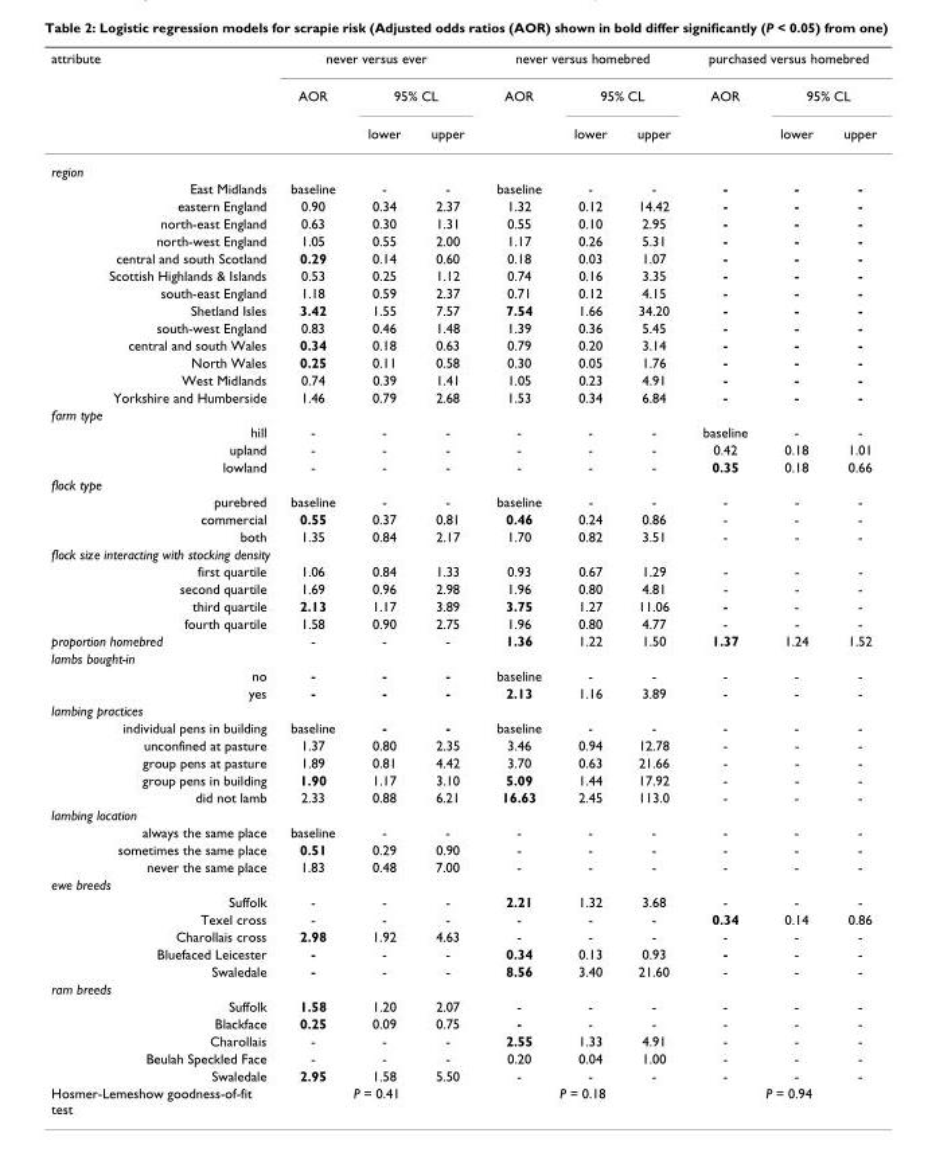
<table><thead><tr><td rowspan="3">attribute</td><td colspan="3">never versus ever</td><td colspan="3">never versus homebred</td><td colspan="3">purchased versus homebred</td></tr><tr><td rowspan="2">AOR</td><td colspan="2">95% CL</td><td rowspan="2">AOR</td><td colspan="2">95% CL</td><td rowspan="2">AOR</td><td colspan="2">95% CL</td></tr><tr><td>lower</td><td>upper</td><td>lower</td><td>upper</td><td>lower</td><td>upper</td></tr></thead><tbody><tr><td colspan="10">region</td></tr><tr><td>East Midlands</td><td>baseline</td><td>-</td><td>-</td><td>baseline</td><td>-</td><td>-</td><td>-</td><td>-</td><td>-</td></tr><tr><td>eastern England</td><td>0.90</td><td>0.34</td><td>2.37</td><td>1.32</td><td>0.12</td><td>14.42</td><td>-</td><td>-</td><td>-</td></tr><tr><td>north-east England</td><td>0.63</td><td>0.30</td><td>1.31</td><td>0.55</td><td>0.10</td><td>2.95</td><td>-</td><td>-</td><td>-</td></tr><tr><td>north-west England</td><td>1.05</td><td>0.55</td><td>2.00</td><td>1.17</td><td>0.26</td><td>5.31</td><td>-</td><td>-</td><td>-</td></tr><tr><td>central and south Scotland</td><td>0.29</td><td>0.14</td><td>0.60</td><td>0.18</td><td>0.03</td><td>1.07</td><td>-</td><td>-</td><td>-</td></tr><tr><td>Scottish Highlands &amp; Islands</td><td>0.53</td><td>0.25</td><td>1.12</td><td>0.74</td><td>0.16</td><td>3.35</td><td>-</td><td>-</td><td>-</td></tr><tr><td>south-east England</td><td>1.18</td><td>0.59</td><td>2.37</td><td>0.71</td><td>0.12</td><td>4.15</td><td>-</td><td>-</td><td>-</td></tr><tr><td>Shetland Isles</td><td>3.42</td><td>1.55</td><td>7.57</td><td>7.54</td><td>1.66</td><td>34.20</td><td>-</td><td>-</td><td>-</td></tr><tr><td>south-west England</td><td>0.83</td><td>0.46</td><td>1.48</td><td>1.39</td><td>0.36</td><td>5.45</td><td>-</td><td>-</td><td>-</td></tr><tr><td>central and south Wales</td><td>0.34</td><td>0.18</td><td>0.63</td><td>0.79</td><td>0.20</td><td>3.14</td><td>-</td><td>-</td><td>-</td></tr><tr><td>North Wales</td><td>0.25</td><td>0.11</td><td>0.58</td><td>0.30</td><td>0.05</td><td>1.76</td><td>-</td><td>-</td><td>-</td></tr><tr><td>West Midlands</td><td>0.74</td><td>0.39</td><td>1.41</td><td>1.05</td><td>0.23</td><td>4.91</td><td>-</td><td>-</td><td>-</td></tr><tr><td>Yorkshire and Humberside</td><td>1.46</td><td>0.79</td><td>2.68</td><td>1.53</td><td>0.34</td><td>6.84</td><td>-</td><td>-</td><td>-</td></tr><tr><td colspan="10">farm type</td></tr><tr><td>hill</td><td>-</td><td>-</td><td>-</td><td>-</td><td>-</td><td>-</td><td>baseline</td><td>-</td><td>-</td></tr><tr><td>upland</td><td>-</td><td>-</td><td>-</td><td>-</td><td>-</td><td>-</td><td>0.42</td><td>0.18</td><td>1.01</td></tr><tr><td>lowland</td><td>-</td><td>-</td><td>-</td><td>-</td><td>-</td><td>-</td><td>0.35</td><td>0.18</td><td>0.66</td></tr><tr><td colspan="10">flock type</td></tr><tr><td>purebred</td><td>baseline</td><td>-</td><td>-</td><td>baseline</td><td>-</td><td>-</td><td>-</td><td>-</td><td>-</td></tr><tr><td>commercial</td><td>0.55</td><td>0.37</td><td>0.81</td><td>0.46</td><td>0.24</td><td>0.86</td><td>-</td><td>-</td><td>-</td></tr><tr><td>both</td><td>1.35</td><td>0.84</td><td>2.17</td><td>1.70</td><td>0.82</td><td>3.51</td><td>-</td><td>-</td><td>-</td></tr><tr><td colspan="10">flock size interacting with stocking density</td></tr><tr><td>first quartile</td><td>1.06</td><td>0.84</td><td>1.33</td><td>0.93</td><td>0.67</td><td>1.29</td><td>-</td><td>-</td><td>-</td></tr><tr><td>second quartile</td><td>1.69</td><td>0.96</td><td>2.98</td><td>1.96</td><td>0.80</td><td>4.81</td><td>-</td><td>-</td><td>-</td></tr><tr><td>third quartile</td><td>2.13</td><td>1.17</td><td>3.89</td><td>3.75</td><td>1.27</td><td>11.06</td><td>-</td><td>-</td><td>-</td></tr><tr><td>fourth quartile</td><td>1.58</td><td>0.90</td><td>2.75</td><td>1.96</td><td>0.80</td><td>4.77</td><td>-</td><td>-</td><td>-</td></tr><tr><td>proportion homebred</td><td>-</td><td>-</td><td>-</td><td>1.36</td><td>1.22</td><td>1.50</td><td>1.37</td><td>1.24</td><td>1.52</td></tr><tr><td colspan="10">lambs bought-in</td></tr><tr><td>no</td><td>-</td><td>-</td><td>-</td><td>baseline</td><td>-</td><td>-</td><td>-</td><td>-</td><td>-</td></tr><tr><td>yes</td><td>-</td><td>-</td><td>-</td><td>2.13</td><td>1.16</td><td>3.89</td><td>-</td><td>-</td><td>-</td></tr><tr><td colspan="10">lambing practices</td></tr><tr><td>individual pens in building</td><td>baseline</td><td>-</td><td>-</td><td>baseline</td><td>-</td><td>-</td><td>-</td><td>-</td><td>-</td></tr><tr><td>unconfined at pasture</td><td>1.37</td><td>0.80</td><td>2.35</td><td>3.46</td><td>0.94</td><td>12.78</td><td>-</td><td>-</td><td>-</td></tr><tr><td>group pens at pasture</td><td>1.89</td><td>0.81</td><td>4.42</td><td>3.70</td><td>0.63</td><td>21.66</td><td>-</td><td>-</td><td>-</td></tr><tr><td>group pens in building</td><td>1.90</td><td>1.17</td><td>3.10</td><td>5.09</td><td>1.44</td><td>17.92</td><td>-</td><td>-</td><td>-</td></tr><tr><td>did not lamb</td><td>2.33</td><td>0.88</td><td>6.21</td><td>16.63</td><td>2.45</td><td>113.0</td><td>-</td><td>-</td><td>-</td></tr><tr><td colspan="10">lambing location</td></tr><tr><td>always the same place</td><td>baseline</td><td>-</td><td>-</td><td>-</td><td>-</td><td>-</td><td>-</td><td>-</td><td>-</td></tr><tr><td>sometimes the same place</td><td>0.51</td><td>0.29</td><td>0.90</td><td>-</td><td>-</td><td>-</td><td>-</td><td>-</td><td>-</td></tr><tr><td>never the same place</td><td>1.83</td><td>0.48</td><td>7.00</td><td>-</td><td>-</td><td>-</td><td>-</td><td>-</td><td>-</td></tr><tr><td colspan="10">ewe breeds</td></tr><tr><td>Suffolk</td><td>-</td><td>-</td><td>-</td><td>2.21</td><td>1.32</td><td>3.68</td><td>-</td><td>-</td><td>-</td></tr><tr><td>Texel cross</td><td>-</td><td>-</td><td>-</td><td>-</td><td>-</td><td>-</td><td>0.34</td><td>0.14</td><td>0.86</td></tr><tr><td>Charollais cross</td><td>2.98</td><td>1.92</td><td>4.63</td><td>-</td><td>-</td><td>-</td><td>-</td><td>-</td><td>-</td></tr><tr><td>Bluefaced Leicester</td><td>-</td><td>-</td><td>-</td><td>0.34</td><td>0.13</td><td>0.93</td><td>-</td><td>-</td><td>-</td></tr><tr><td>Swaledale</td><td>-</td><td>-</td><td>-</td><td>8.56</td><td>3.40</td><td>21.60</td><td>-</td><td>-</td><td>-</td></tr><tr><td colspan="10">ram breeds</td></tr><tr><td>Suffolk</td><td>1.58</td><td>1.20</td><td>2.07</td><td>-</td><td>-</td><td>-</td><td>-</td><td>-</td><td>-</td></tr><tr><td>Blackface</td><td>0.25</td><td>0.09</td><td>0.75</td><td>-</td><td>-</td><td>-</td><td>-</td><td>-</td><td>-</td></tr><tr><td>Charollais</td><td>-</td><td>-</td><td>-</td><td>2.55</td><td>1.33</td><td>4.91</td><td>-</td><td>-</td><td>-</td></tr><tr><td>Beulah Speckled Face</td><td>-</td><td>-</td><td>-</td><td>0.20</td><td>0.04</td><td>1.00</td><td>-</td><td>-</td><td>-</td></tr><tr><td>Swaledale</td><td>2.95</td><td>1.58</td><td>5.50</td><td>-</td><td>-</td><td>-</td><td>-</td><td>-</td><td>-</td></tr><tr><td>Hosmer-Lemeshow goodness-of-fit test</td><td colspan="3">P = 0.41</td><td colspan="3">P = 0.18</td><td colspan="3">P = 0.94</td></tr></tbody></table>